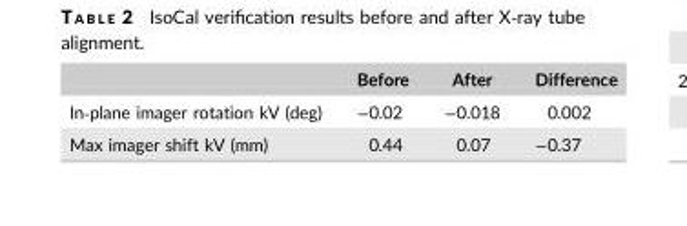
<table><thead><tr><td></td><td>Before</td><td>After</td><td>Difference</td></tr></thead><tbody><tr><td>In‐plane imager rotation kV (deg)</td><td>−0.02</td><td>−0.018</td><td>0.002</td></tr><tr><td>Max imager shift kV (mm)</td><td>0.44</td><td>0.07</td><td>−0.37</td></tr></tbody></table>